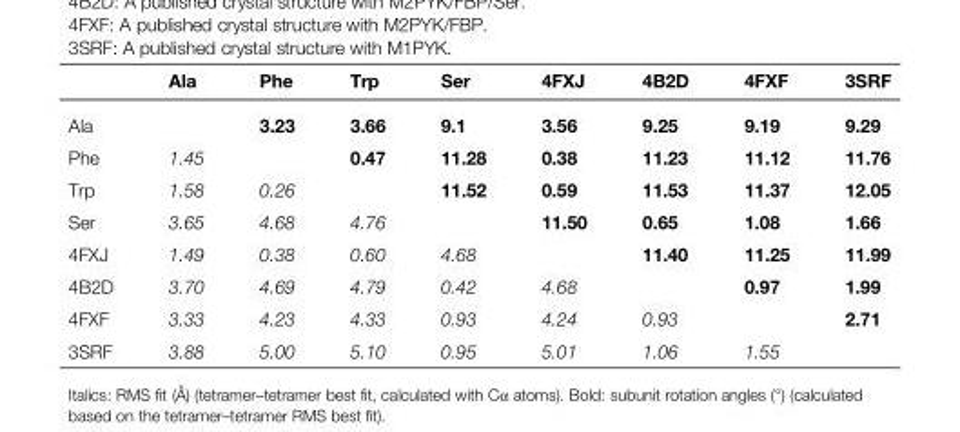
<table><thead><tr><td></td><td>Ala</td><td>Phe</td><td>Trp</td><td>Ser</td><td>4FXJ</td><td>4B2D</td><td>4FXF</td><td>3SRF</td></tr></thead><tbody><tr><td>Ala</td><td></td><td>3.23</td><td>3.66</td><td>9.1</td><td>3.56</td><td>9.25</td><td>9.19</td><td>9.29</td></tr><tr><td>Phe</td><td>1.45</td><td></td><td>0.47</td><td>11.28</td><td>0.38</td><td>11.23</td><td>11.12</td><td>11.76</td></tr><tr><td>Trp</td><td>1.58</td><td>0.26</td><td></td><td>11.52</td><td>0.59</td><td>11.53</td><td>11.37</td><td>12.05</td></tr><tr><td>Ser</td><td>3.65</td><td>4.68</td><td>4.76</td><td></td><td>11.50</td><td>0.65</td><td>1.08</td><td>1.66</td></tr><tr><td>4FXJ</td><td>1.49</td><td>0.38</td><td>0.60</td><td>4.68</td><td></td><td>11.40</td><td>11.25</td><td>11.99</td></tr><tr><td>4B2D</td><td>3.70</td><td>4.69</td><td>4.79</td><td>0.42</td><td>4.68</td><td></td><td>0.97</td><td>1.99</td></tr><tr><td>4FXF</td><td>3.33</td><td>4.23</td><td>4.33</td><td>0.93</td><td>4.24</td><td>0.93</td><td></td><td>2.71</td></tr><tr><td>3SRF</td><td>3.88</td><td>5.00</td><td>5.10</td><td>0.95</td><td>5.01</td><td>1.06</td><td>1.55</td><td></td></tr></tbody></table>